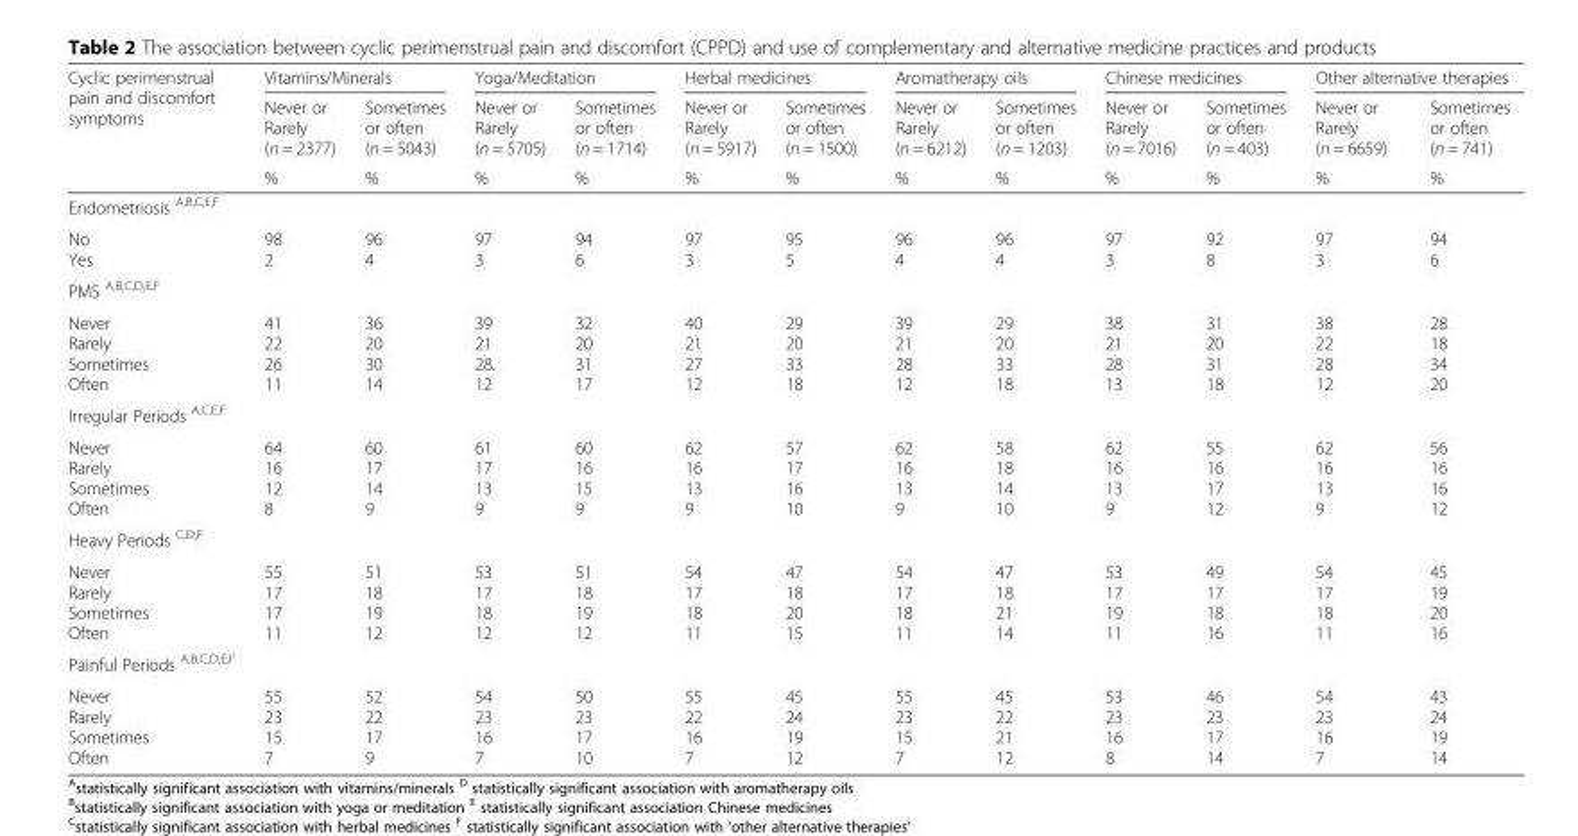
<table><thead><tr><td rowspan="3">Cyclic perimenstrual pain and discomfort symptoms</td><td colspan="2">Vitamins/Minerals</td><td colspan="2">Yoga/Meditation</td><td colspan="2">Herbal medicines</td><td colspan="2">Aromatherapy oils</td><td colspan="2">Chinese medicines</td><td colspan="2">Other alternative therapies</td></tr><tr><td rowspan="2">Never or Rarely (n = 2377) %</td><td rowspan="2">Sometimes or often (n = 5043) %</td><td rowspan="2">Never or Rarely (n = 5705) %</td><td rowspan="2">Sometimes or often (n = 1714) %</td><td rowspan="2">Never or Rarely (n = 5917) %</td><td rowspan="2">Sometimes or often (n = 1500) %</td><td rowspan="2">Never or Rarely (n = 6212) %</td><td rowspan="2">Sometimes or often (n = 1203) %</td><td rowspan="2">Never or Rarely (n = 7016) %</td><td rowspan="2">Sometimes or often (n = 403) %</td><td rowspan="2">Never or Rarely (n = 6659) %</td><td rowspan="2">Sometimes or often (n = 741) %</td></tr><tr></tr></thead><tbody><tr><td colspan="13">Endometriosis <sup>A,B,C,E,F</sup></td></tr><tr><td>No Yes</td><td>98 2</td><td>96 4</td><td>97 3</td><td>94 6</td><td>97 3</td><td>95 5</td><td>96 4</td><td>96 4</td><td>97 3</td><td>92 8</td><td>97 3</td><td>94 6</td></tr><tr><td colspan="13">PMS <sup>A,B,C,D,E,F</sup></td></tr><tr><td>Never Rarely Sometimes Often</td><td>41 22 26 11</td><td>36 20 30 14</td><td>39 21 28. 12</td><td>32 20 31 17</td><td>40 21 27 12</td><td>29 20 33 18</td><td>39 21 28 12</td><td>29 20 33 18</td><td>38 21 28 13</td><td>31 20 31 18</td><td>38 22 28 12</td><td>28 18 34 20</td></tr><tr><td colspan="13">Irregular Periods <sup>A,C,E,F</sup></td></tr><tr><td>Never Rarely Sometimes Often</td><td>64 16 12 8</td><td>60 17 14 9</td><td>61 17 13 9</td><td>60 16 15 9</td><td>62 16 13 9</td><td>57 17 16 10</td><td>62 16 13 9</td><td>58 18 14 10</td><td>62 16 13 9</td><td>55 16 17 12</td><td>62 16 13 9</td><td>56 16 16 12</td></tr><tr><td colspan="13">Heavy Periods <sup>C,D,F</sup></td></tr><tr><td>Never Rarely Sometimes Often</td><td>55 17 17 11</td><td>51 18 19 12</td><td>53 17 18 12</td><td>51 18 19 12</td><td>54 17 18 11</td><td>47 18 20 15</td><td>54 17 18 11</td><td>47 18 21 14</td><td>53 17 19 11</td><td>49 17 18 16</td><td>54 17 18 11</td><td>45 19 20 16</td></tr><tr><td colspan="13">Painful Periods <sup>A,B,C,D,E,F</sup></td></tr><tr><td>Never Rarely Sometimes Often</td><td>55 23 15 7</td><td>52 22 17 9</td><td>54 23 16 7</td><td>50 23 17 10</td><td>55 22 16 7</td><td>45 24 19 12</td><td>55 23 15 7</td><td>45 22 21 12</td><td>53 23 16 8</td><td>46 23 17 14</td><td>54 23 16 7</td><td>43 24 19 14</td></tr></tbody></table>